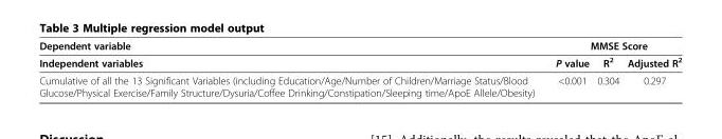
<table><thead><tr><td rowspan="2">Dependent variable Independent variables</td><td colspan="3">MMSE Score</td></tr><tr><td>P value</td><td>R<sup>2</sup></td><td>Adjusted R<sup>2</sup></td></tr></thead><tbody><tr><td>Cumulative of all the 13 Significant Variables (including Education/Age/Number of Children/Marriage Status/Blood Glucose/Physical Exercise/Family Structure/Dysuria/Coffee Drinking/Constipation/Sleeping time/ApoE Allele/Obesity)</td><td>&lt;0.001</td><td>0.304</td><td>0.297</td></tr></tbody></table>